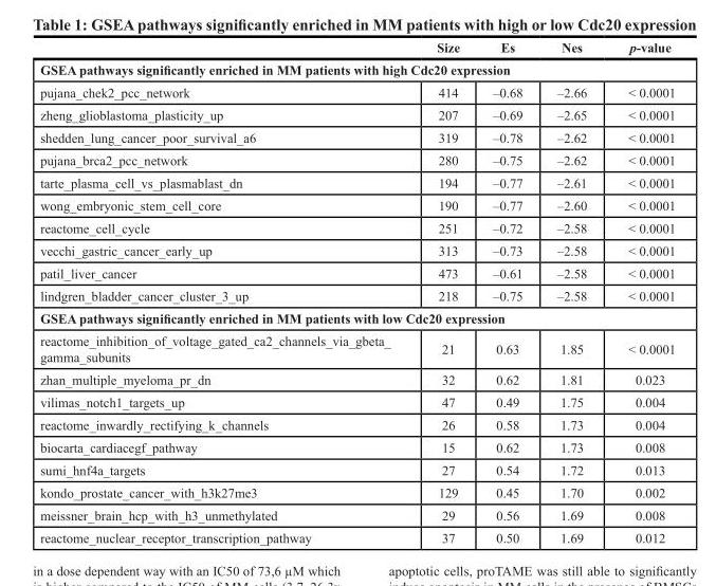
<table><thead><tr><td></td><td>Size</td><td>Es</td><td>Nes</td><td>p-value</td></tr></thead><tbody><tr><td colspan="5">GSEA pathways significantly enriched in MM patients with high Cdc20 expression</td></tr><tr><td>pujana_chek2_pcc_network</td><td>414</td><td>–0.68</td><td>–2.66</td><td>&lt; 0.0001</td></tr><tr><td>zheng_glioblastoma_plasticity_up</td><td>207</td><td>–0.69</td><td>–2.65</td><td>&lt; 0.0001</td></tr><tr><td>shedden_lung_cancer_poor_survival_a6</td><td>319</td><td>–0.78</td><td>–2.62</td><td>&lt; 0.0001</td></tr><tr><td>pujana_brca2_pcc_network</td><td>280</td><td>–0.75</td><td>–2.62</td><td>&lt; 0.0001</td></tr><tr><td>tarte_plasma_cell_vs_plasmablast_dn</td><td>194</td><td>–0.77</td><td>–2.61</td><td>&lt; 0.0001</td></tr><tr><td>wong_embryonic_stem_cell_core</td><td>190</td><td>–0.77</td><td>–2.60</td><td>&lt; 0.0001</td></tr><tr><td>reactome_cell_cycle</td><td>251</td><td>–0.72</td><td>–2.58</td><td>&lt; 0.0001</td></tr><tr><td>vecchi_gastric_cancer_early_up</td><td>313</td><td>–0.73</td><td>–2.58</td><td>&lt; 0.0001</td></tr><tr><td>patil_liver_cancer</td><td>473</td><td>–0.61</td><td>–2.58</td><td>&lt; 0.0001</td></tr><tr><td>lindgren_bladder_cancer_cluster_3_up</td><td>218</td><td>–0.75</td><td>–2.58</td><td>&lt; 0.0001</td></tr><tr><td colspan="5">GSEA pathways significantly enriched in MM patients with low Cdc20 expression</td></tr><tr><td>reactome_inhibition_of_voltage_gated_ca2_channels_via_gbeta_ gamma_subunits</td><td>21</td><td>0.63</td><td>1.85</td><td>&lt; 0.0001</td></tr><tr><td>zhan_multiple_myeloma_pr_dn</td><td>32</td><td>0.62</td><td>1.81</td><td>0.023</td></tr><tr><td>vilimas_notch1_targets_up</td><td>47</td><td>0.49</td><td>1.75</td><td>0.004</td></tr><tr><td>reactome_inwardly_rectifying_k_channels</td><td>26</td><td>0.58</td><td>1.73</td><td>0.004</td></tr><tr><td>biocarta_cardiacegf_pathway</td><td>15</td><td>0.62</td><td>1.73</td><td>0.008</td></tr><tr><td>sumi_hnf4a_targets</td><td>27</td><td>0.54</td><td>1.72</td><td>0.013</td></tr><tr><td>kondo_prostate_cancer_with_h3k27me3</td><td>129</td><td>0.45</td><td>1.70</td><td>0.002</td></tr><tr><td>meissner_brain_hcp_with_h3_unmethylated</td><td>29</td><td>0.56</td><td>1.69</td><td>0.008</td></tr><tr><td>reactome_nuclear_receptor_transcription_pathway</td><td>37</td><td>0.50</td><td>1.69</td><td>0.012</td></tr></tbody></table>